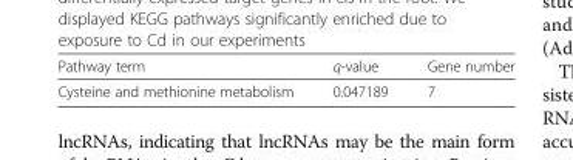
<table><thead><tr><td>Pathway term</td><td>q-value</td><td>Gene number</td></tr></thead><tbody><tr><td>Cysteine and methionine metabolism</td><td>0.047189</td><td>7</td></tr></tbody></table>